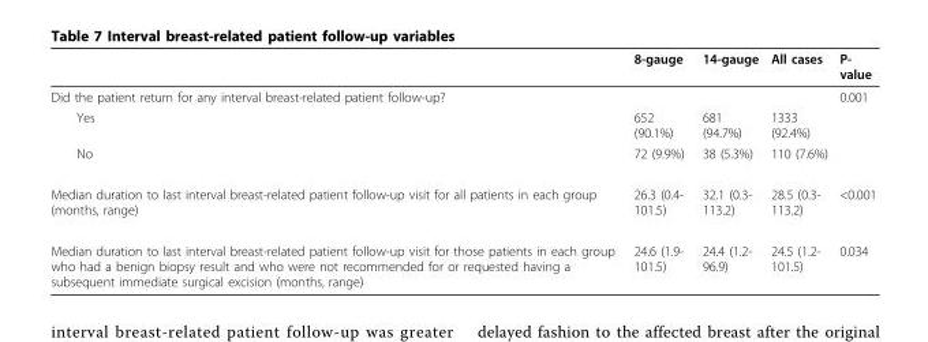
<table><thead><tr><td></td><td>8-gauge</td><td>14-gauge</td><td>All cases</td><td>P- value</td></tr></thead><tbody><tr><td>Did the patient return for any interval breast-related patient follow-up?</td><td></td><td></td><td></td><td>0.001</td></tr><tr><td>Yes</td><td>652 (90.1%)</td><td>681 (94.7%)</td><td>1333 (92.4%)</td><td></td></tr><tr><td>No</td><td>72 (9.9%)</td><td>38 (5.3%)</td><td>110 (7.6%)</td><td></td></tr><tr><td>Median duration to last interval breast-related patient follow-up visit for all patients in each group (months, range)</td><td>26.3 (0.4- 101.5)</td><td>32.1 (0.3- 113.2)</td><td>28.5 (0.3- 113.2)</td><td>&lt;0.001</td></tr><tr><td>Median duration to last interval breast-related patient follow-up visit for those patients in each group who had a benign biopsy result and who were not recommended for or requested having a subsequent immediate surgical excision (months, range)</td><td>24.6 (1.9- 101.5)</td><td>24.4 (1.2- 96.9)</td><td>24.5 (1.2- 101.5)</td><td>0.034</td></tr></tbody></table>